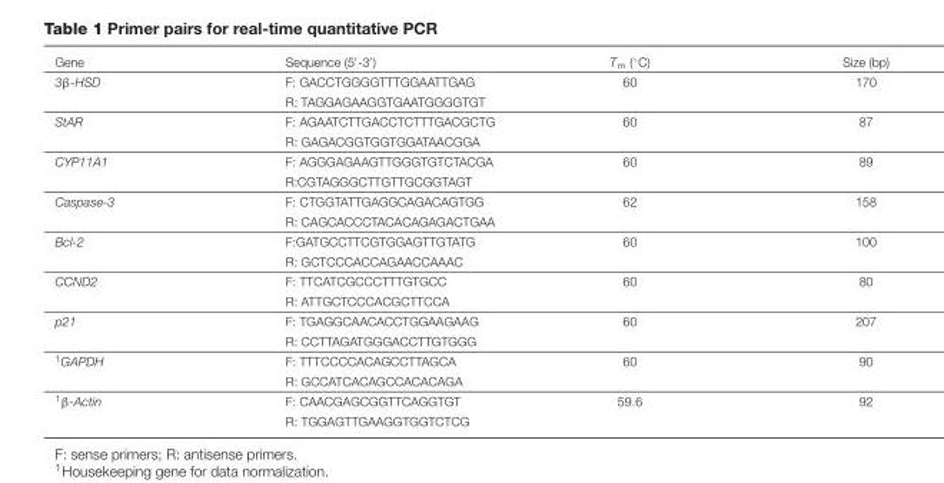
<table><tbody><tr><td>Gene</td><td>Sequence (5′-3′)</td><td>Tm (◦C)</td><td>Size (bp)</td></tr><tr><td rowspan="2">3β-HSD</td><td>F: GACCTGGGGTTTGGAATTGAG</td><td>60</td><td>170</td></tr><tr><td>R: TAGGAGAAGGTGAATGGGGTGT</td><td></td><td></td></tr><tr><td rowspan="2">StAR</td><td>F: AGAATCTTGACCTCTTTGACGCTG</td><td>60</td><td>87</td></tr><tr><td>R: GAGACGGTGGTGGATAACGGA</td><td></td><td></td></tr><tr><td rowspan="2">CYP11A1</td><td>F: AGGGAGAAGTTGGGTGTCTACGA</td><td>60</td><td>89</td></tr><tr><td>R:CGTAGGGCTTGTTGCGGTAGT</td><td></td><td></td></tr><tr><td rowspan="2">Caspase-3</td><td>F: CTGGTATTGAGGCAGACAGTGG</td><td>62</td><td>158</td></tr><tr><td>R: CAGCACCCTACACAGAGACTGAA</td><td></td><td></td></tr><tr><td rowspan="2">Bcl-2</td><td>F:GATGCCTTCGTGGAGTTGTATG</td><td>60</td><td>100</td></tr><tr><td>R: GCTCCCACCAGAACCAAAC</td><td></td><td></td></tr><tr><td rowspan="2">CCND2</td><td>F: TTCATCGCCCTTTGTGCC</td><td>60</td><td>80</td></tr><tr><td>R: ATTGCTCCCACGCTTCCA</td><td></td><td></td></tr><tr><td rowspan="2">p21</td><td>F: TGAGGCAACACCTGGAAGAAG</td><td>60</td><td>207</td></tr><tr><td>R: CCTTAGATGGGACCTTGTGGG</td><td></td><td></td></tr><tr><td rowspan="2"><sup>1</sup>GAPDH</td><td>F: TTTCCCCACAGCCTTAGCA</td><td>60</td><td>90</td></tr><tr><td>R: GCCATCACAGCCACACAGA</td><td></td><td></td></tr><tr><td rowspan="2"><sup>1</sup>β-Actin</td><td>F: CAACGAGCGGTTCAGGTGT</td><td>59.6</td><td>92</td></tr><tr><td>R: TGGAGTTGAAGGTGGTCTCG</td><td></td><td></td></tr></tbody></table>